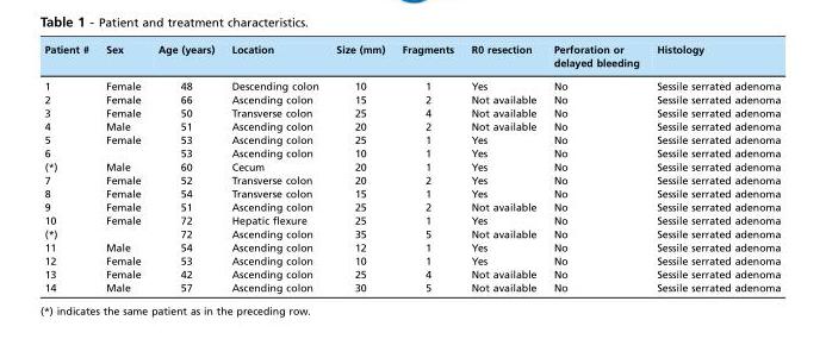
<table><thead><tr><td>Patient #</td><td>Sex</td><td>Age (years)</td><td>Location</td><td>Size (mm)</td><td>Fragments</td><td>R0 resection</td><td>Perforation or delayed bleeding</td><td>Histology</td></tr></thead><tbody><tr><td>1</td><td>Female</td><td>48</td><td>Descending colon</td><td>10</td><td>1</td><td>Yes</td><td>No</td><td>Sessile serrated adenoma</td></tr><tr><td>2</td><td>Female</td><td>66</td><td>Ascending colon</td><td>15</td><td>2</td><td>Not available</td><td>No</td><td>Sessile serrated adenoma</td></tr><tr><td>3</td><td>Female</td><td>50</td><td>Transverse colon</td><td>25</td><td>4</td><td>Not available</td><td>No</td><td>Sessile serrated adenoma</td></tr><tr><td>4</td><td>Male</td><td>51</td><td>Ascending colon</td><td>20</td><td>2</td><td>Not available</td><td>No</td><td>Sessile serrated adenoma</td></tr><tr><td>5</td><td>Female</td><td>53</td><td>Ascending colon</td><td>25</td><td>1</td><td>Yes</td><td>No</td><td>Sessile serrated adenoma</td></tr><tr><td>6</td><td></td><td>53</td><td>Ascending colon</td><td>10</td><td>1</td><td>Yes</td><td>No</td><td>Sessile serrated adenoma</td></tr><tr><td>(*)</td><td>Male</td><td>60</td><td>Cecum</td><td>20</td><td>1</td><td>Yes</td><td>No</td><td>Sessile serrated adenoma</td></tr><tr><td>7</td><td>Female</td><td>52</td><td>Transverse colon</td><td>20</td><td>2</td><td>Yes</td><td>No</td><td>Sessile serrated adenoma</td></tr><tr><td>8</td><td>Female</td><td>54</td><td>Transverse colon</td><td>15</td><td>1</td><td>Yes</td><td>No</td><td>Sessile serrated adenoma</td></tr><tr><td>9</td><td>Female</td><td>51</td><td>Ascending colon</td><td>25</td><td>2</td><td>Not available</td><td>No</td><td>Sessile serrated adenoma</td></tr><tr><td>10</td><td>Female</td><td>72</td><td>Hepatic flexure</td><td>25</td><td>1</td><td>Yes</td><td>No</td><td>Sessile serrated adenoma</td></tr><tr><td>(*)</td><td></td><td>72</td><td>Ascending colon</td><td>35</td><td>5</td><td>Not available</td><td>No</td><td>Sessile serrated adenoma</td></tr><tr><td>11</td><td>Male</td><td>54</td><td>Ascending colon</td><td>12</td><td>1</td><td>Yes</td><td>No</td><td>Sessile serrated adenoma</td></tr><tr><td>12</td><td>Female</td><td>53</td><td>Ascending colon</td><td>10</td><td>1</td><td>Yes</td><td>No</td><td>Sessile serrated adenoma</td></tr><tr><td>13</td><td>Female</td><td>42</td><td>Ascending colon</td><td>25</td><td>4</td><td>Not available</td><td>No</td><td>Sessile serrated adenoma</td></tr><tr><td>14</td><td>Male</td><td>57</td><td>Ascending colon</td><td>30</td><td>5</td><td>Not available</td><td>No</td><td>Sessile serrated adenoma</td></tr></tbody></table>